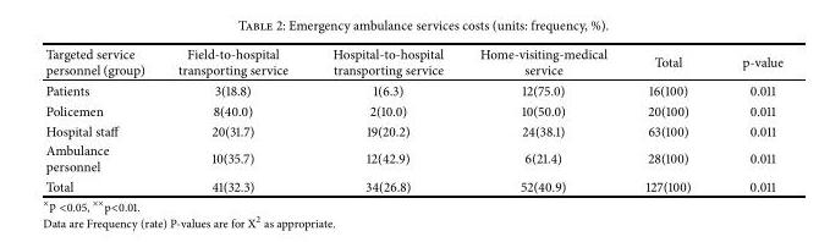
<table><thead><tr><td>Targeted service personnel (group)</td><td>Field-to-hospital transporting service</td><td>Hospital-to-hospital transporting service</td><td>Home-visiting-medical service</td><td>Total</td><td>p-value</td></tr></thead><tbody><tr><td>Patients</td><td>3(18.8)</td><td>1(6.3)</td><td>12(75.0)</td><td>16(100)</td><td>0.011</td></tr><tr><td>Policemen</td><td>8(40.0)</td><td>2(10.0)</td><td>10(50.0)</td><td>20(100)</td><td>0.011</td></tr><tr><td>Hospital staff</td><td>20(31.7)</td><td>19(20.2)</td><td>24(38.1)</td><td>63(100)</td><td>0.011</td></tr><tr><td>Ambulance personnel</td><td>10(35.7)</td><td>12(42.9)</td><td>6(21.4)</td><td>28(100)</td><td>0.011</td></tr><tr><td>Total</td><td>41(32.3)</td><td>34(26.8)</td><td>52(40.9)</td><td>127(100)</td><td>0.011</td></tr></tbody></table>